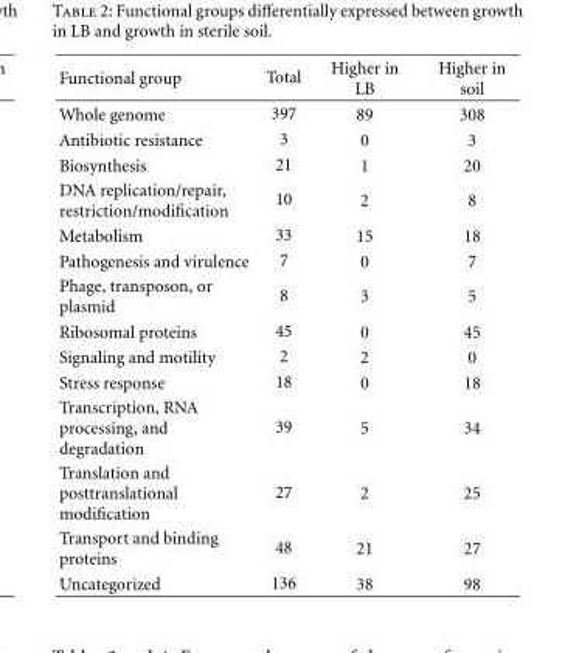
<table><thead><tr><td>Functional group</td><td>Total</td><td>Higher in LB</td><td>Higher in soil</td></tr></thead><tbody><tr><td>Whole genome</td><td>397</td><td>89</td><td>308</td></tr><tr><td>Antibiotic resistance</td><td>3</td><td>0</td><td>3</td></tr><tr><td>Biosynthesis</td><td>21</td><td>1</td><td>20</td></tr><tr><td>DNA replication/repair, restriction/modification</td><td>10</td><td>2</td><td>8</td></tr><tr><td>Metabolism</td><td>33</td><td>15</td><td>18</td></tr><tr><td>Pathogenesis and virulence</td><td>7</td><td>0</td><td>7</td></tr><tr><td>Phage, transposon, or plasmid</td><td>8</td><td>3</td><td>5</td></tr><tr><td>Ribosomal proteins</td><td>45</td><td>0</td><td>45</td></tr><tr><td>Signaling and motility</td><td>2</td><td>2</td><td>0</td></tr><tr><td>Stress response</td><td>18</td><td>0</td><td>18</td></tr><tr><td>Transcription, RNA processing, and degradation</td><td>39</td><td>5</td><td>34</td></tr><tr><td>Translation and posttranslational modification</td><td>27</td><td>2</td><td>25</td></tr><tr><td>Transport and binding proteins</td><td>48</td><td>21</td><td>27</td></tr><tr><td>Uncategorized</td><td>136</td><td>38</td><td>98</td></tr></tbody></table>